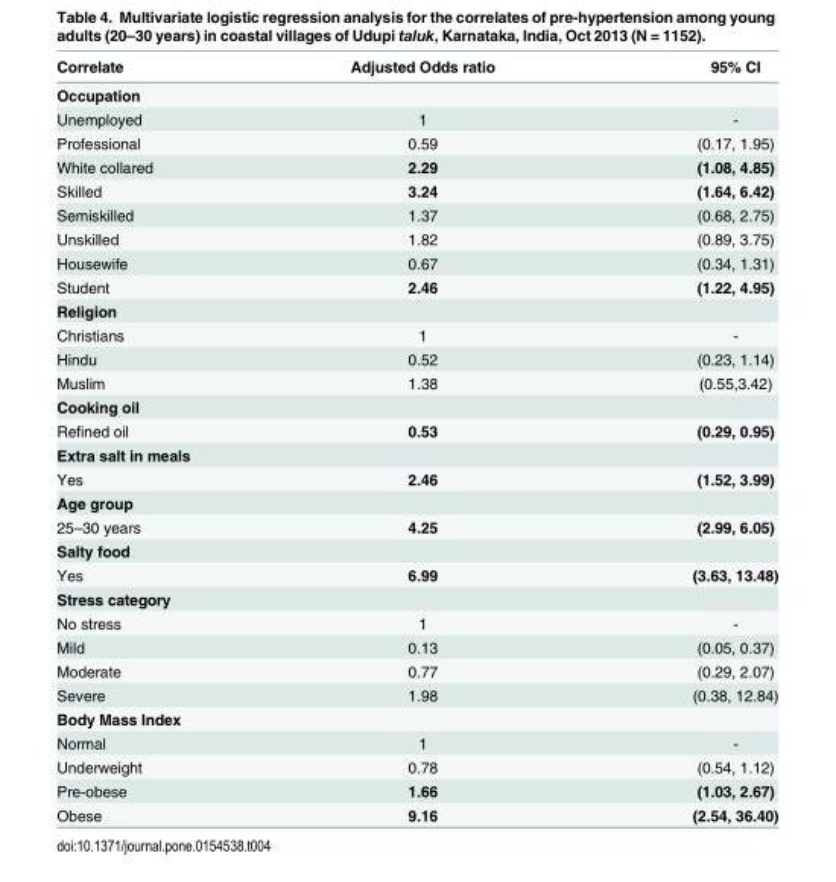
<table><thead><tr><td>Correlate</td><td>Adjusted Odds ratio</td><td>95% CI</td></tr></thead><tbody><tr><td colspan="3">Occupation</td></tr><tr><td>Unemployed</td><td>1</td><td>-</td></tr><tr><td>Professional</td><td>0.59</td><td>(0.17, 1.95)</td></tr><tr><td>White collared</td><td>2.29</td><td>(1.08, 4.85)</td></tr><tr><td>Skilled</td><td>3.24</td><td>(1.64, 6.42)</td></tr><tr><td>Semiskilled</td><td>1.37</td><td>(0.68, 2.75)</td></tr><tr><td>Unskilled</td><td>1.82</td><td>(0.89, 3.75)</td></tr><tr><td>Housewife</td><td>0.67</td><td>(0.34, 1.31)</td></tr><tr><td>Student</td><td>2.46</td><td>(1.22, 4.95)</td></tr><tr><td colspan="3">Religion</td></tr><tr><td>Christians</td><td>1</td><td>-</td></tr><tr><td>Hindu</td><td>0.52</td><td>(0.23, 1.14)</td></tr><tr><td>Muslim</td><td>1.38</td><td>(0.55,3.42)</td></tr><tr><td colspan="3">Cooking oil</td></tr><tr><td>Refined oil</td><td>0.53</td><td>(0.29, 0.95)</td></tr><tr><td colspan="3">Extra salt in meals</td></tr><tr><td>Yes</td><td>2.46</td><td>(1.52, 3.99)</td></tr><tr><td colspan="3">Age group</td></tr><tr><td>25–30 years</td><td>4.25</td><td>(2.99, 6.05)</td></tr><tr><td colspan="3">Salty food</td></tr><tr><td>Yes</td><td>6.99</td><td>(3.63, 13.48)</td></tr><tr><td colspan="3">Stress category</td></tr><tr><td>No stress</td><td>1</td><td>-</td></tr><tr><td>Mild</td><td>0.13</td><td>(0.05, 0.37)</td></tr><tr><td>Moderate</td><td>0.77</td><td>(0.29, 2.07)</td></tr><tr><td>Severe</td><td>1.98</td><td>(0.38, 12.84)</td></tr><tr><td colspan="3">Body Mass Index</td></tr><tr><td>Normal</td><td>1</td><td>-</td></tr><tr><td>Underweight</td><td>0.78</td><td>(0.54, 1.12)</td></tr><tr><td>Pre-obese</td><td>1.66</td><td>(1.03, 2.67)</td></tr><tr><td>Obese</td><td>9.16</td><td>(2.54, 36.40)</td></tr></tbody></table>